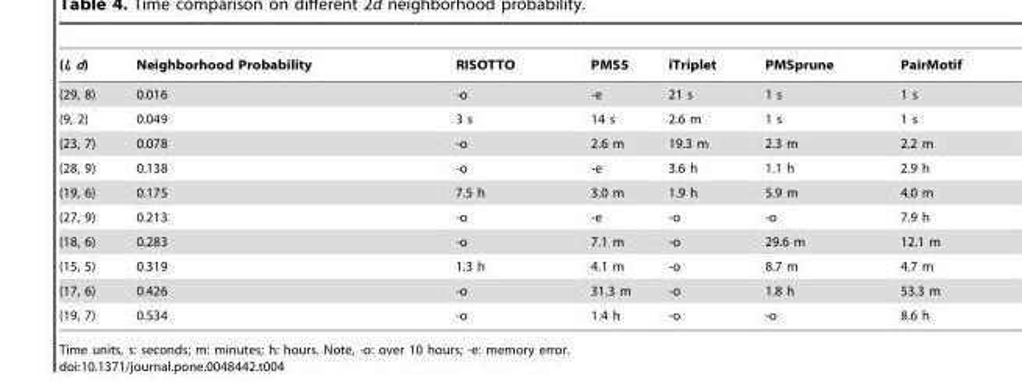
<table><thead><tr><td>(l, d)</td><td>Neighborhood Probability</td><td>RISOTTO</td><td>PMS5</td><td>iTriplet</td><td>PMSprune</td><td>PairMotif</td></tr></thead><tbody><tr><td>(29, 8)</td><td>0.016</td><td>-o</td><td>-e</td><td>21 s</td><td>1 s</td><td>1 s</td></tr><tr><td>(9, 2)</td><td>0.049</td><td>3 s</td><td>14 s</td><td>2.6 m</td><td>1 s</td><td>1 s</td></tr><tr><td>(23, 7)</td><td>0.078</td><td>-o</td><td>2.6 m</td><td>19.3 m</td><td>2.3 m</td><td>2.2 m</td></tr><tr><td>(28, 9)</td><td>0.138</td><td>-o</td><td>-e</td><td>3.6 h</td><td>1.1 h</td><td>2.9 h</td></tr><tr><td>(19, 6)</td><td>0.175</td><td>7.5 h</td><td>3.0 m</td><td>1.9 h</td><td>5.9 m</td><td>4.0 m</td></tr><tr><td>(27, 9)</td><td>0.213</td><td>-o</td><td>-e</td><td>-o</td><td>-o</td><td>7.9 h</td></tr><tr><td>(18, 6)</td><td>0.283</td><td>-o</td><td>7.1 m</td><td>-o</td><td>29.6 m</td><td>12.1 m</td></tr><tr><td>(15, 5)</td><td>0.319</td><td>1.3 h</td><td>4.1 m</td><td>-o</td><td>8.7 m</td><td>4.7 m</td></tr><tr><td>(17, 6)</td><td>0.426</td><td>-o</td><td>31.3 m</td><td>-o</td><td>1.8 h</td><td>53.3 m</td></tr><tr><td>(19, 7)</td><td>0.534</td><td>-o</td><td>1.4 h</td><td>-o</td><td>-o</td><td>8.6 h</td></tr></tbody></table>